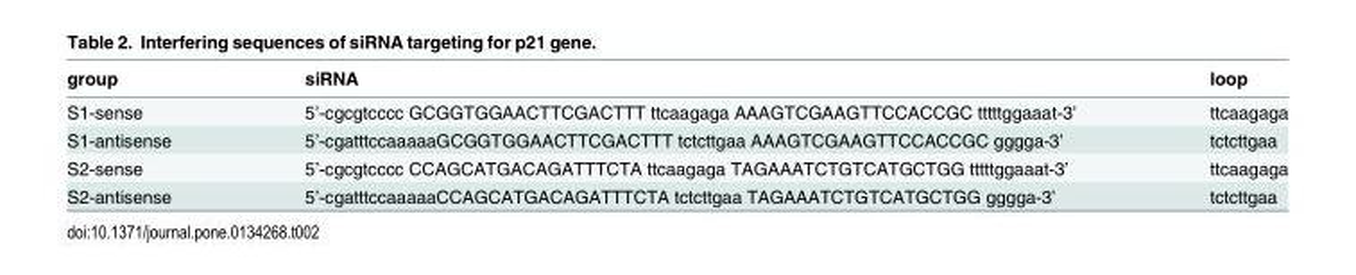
<table><thead><tr><td>group</td><td>siRNA</td><td>loop</td></tr></thead><tbody><tr><td>S1-sense</td><td>5’-cgcgtcccc GCGGTGGAACTTCGACTTT ttcaagaga AAAGTCGAAGTTCCACCGC tttttggaaat-3’</td><td>ttcaagaga</td></tr><tr><td>S1-antisense</td><td>5’-cgatttccaaaaaGCGGTGGAACTTCGACTTT tctcttgaa AAAGTCGAAGTTCCACCGC gggga-3’</td><td>tctcttgaa</td></tr><tr><td>S2-sense</td><td>5’-cgcgtcccc CCAGCATGACAGATTTCTA ttcaagaga TAGAAATCTGTCATGCTGG tttttggaaat-3’</td><td>ttcaagaga</td></tr><tr><td>S2-antisense</td><td>5’-cgatttccaaaaaCCAGCATGACAGATTTCTA tctcttgaa TAGAAATCTGTCATGCTGG gggga-3’</td><td>tctcttgaa</td></tr></tbody></table>